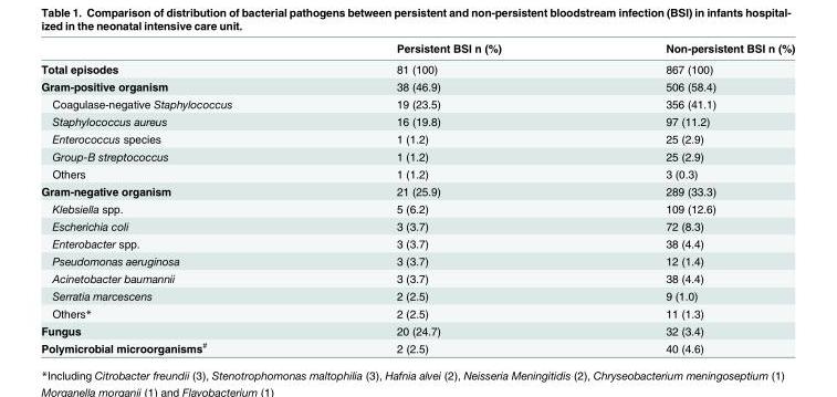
<table><thead><tr><td></td><td>Persistent BSI n (%)</td><td>Non-persistent BSI n (%)</td></tr></thead><tbody><tr><td>Total episodes</td><td>81 (100)</td><td>867 (100)</td></tr><tr><td>Gram-positive organism</td><td>38 (46.9)</td><td>506 (58.4)</td></tr><tr><td>Coagulase-negative Staphylococcus</td><td>19 (23.5)</td><td>356 (41.1)</td></tr><tr><td>Staphylococcus aureus</td><td>16 (19.8)</td><td>97 (11.2)</td></tr><tr><td>Enterococcus species</td><td>1 (1.2)</td><td>25 (2.9)</td></tr><tr><td>Group-B streptococcus</td><td>1 (1.2)</td><td>25 (2.9)</td></tr><tr><td>Others</td><td>1 (1.2)</td><td>3 (0.3)</td></tr><tr><td>Gram-negative organism</td><td>21 (25.9)</td><td>289 (33.3)</td></tr><tr><td>Klebsiella spp.</td><td>5 (6.2)</td><td>109 (12.6)</td></tr><tr><td>Escherichia coli</td><td>3 (3.7)</td><td>72 (8.3)</td></tr><tr><td>Enterobacter spp.</td><td>3 (3.7)</td><td>38 (4.4)</td></tr><tr><td>Pseudomonas aeruginosa</td><td>3 (3.7)</td><td>12 (1.4)</td></tr><tr><td>Acinetobacter baumannii</td><td>3 (3.7)</td><td>38 (4.4)</td></tr><tr><td>Serratia marcescens</td><td>2 (2.5)</td><td>9 (1.0)</td></tr><tr><td>Others*</td><td>2 (2.5)</td><td>11 (1.3)</td></tr><tr><td>Fungus</td><td>20 (24.7)</td><td>32 (3.4)</td></tr><tr><td>Polymicrobial microorganisms<sup>#</sup></td><td>2 (2.5)</td><td>40 (4.6)</td></tr></tbody></table>